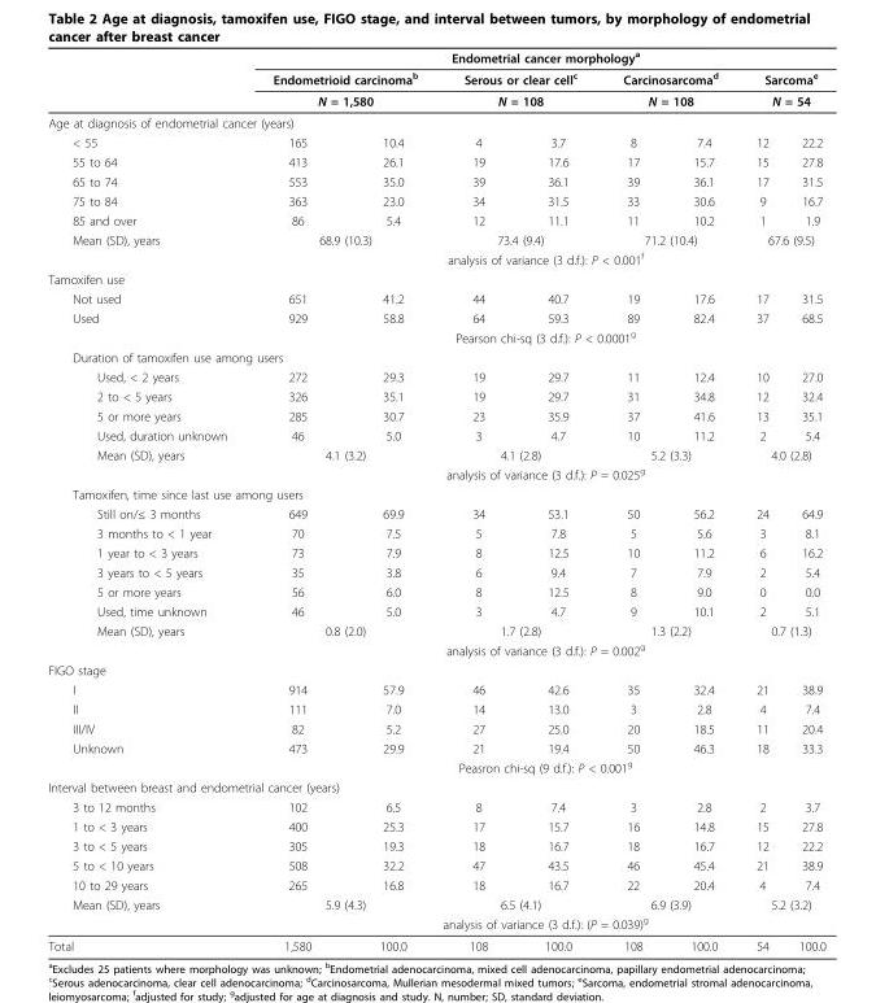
<table><thead><tr><td rowspan="3"></td><td colspan="8">Endometrial cancer morphology<sup>a</sup></td></tr><tr><td rowspan="2" colspan="2">Endometrioid carcinoma<sup>b</sup> N = 1,580</td><td rowspan="2" colspan="2">Serous or clear cell<sup>c</sup> N = 108</td><td rowspan="2" colspan="2">Carcinosarcoma<sup>d</sup> N = 108</td><td rowspan="2" colspan="2">Sarcoma<sup>e</sup> N = 54</td></tr><tr></tr><tr><td colspan="9">Age at diagnosis of endometrial cancer (years)</td></tr><tr><td>&lt; 55</td><td>165</td><td>10.4</td><td>4</td><td>3.7</td><td>8</td><td>7.4</td><td>12</td><td>22.2</td></tr></thead><tbody><tr><td>55 to 64</td><td>413</td><td>26.1</td><td>19</td><td>17.6</td><td>17</td><td>15.7</td><td>15</td><td>27.8</td></tr><tr><td>65 to 74</td><td>553</td><td>35.0</td><td>39</td><td>36.1</td><td>39</td><td>36.1</td><td>17</td><td>31.5</td></tr><tr><td>75 to 84</td><td>363</td><td>23.0</td><td>34</td><td>31.5</td><td>33</td><td>30.6</td><td>9</td><td>16.7</td></tr><tr><td>85 and over</td><td>86</td><td>5.4</td><td>12</td><td>11.1</td><td>11</td><td>10.2</td><td>1</td><td>1.9</td></tr><tr><td rowspan="2">Mean (SD), years</td><td colspan="2">68.9 (10.3)</td><td colspan="2">73.4 (9.4)</td><td colspan="2">71.2 (10.4)</td><td colspan="2">67.6 (9.5)</td></tr><tr><td colspan="8">analysis of variance (3 d.f.): P &lt; 0.001<sup>f</sup></td></tr><tr><td colspan="9">Tamoxifen use</td></tr><tr><td>Not used</td><td>651</td><td>41.2</td><td>44</td><td>40.7</td><td>19</td><td>17.6</td><td>17</td><td>31.5</td></tr><tr><td rowspan="2">Used</td><td>929</td><td>58.8</td><td>64</td><td>59.3</td><td>89</td><td>82.4</td><td>37</td><td>68.5</td></tr><tr><td colspan="8">Pearson chi-sq (3 d.f.): P &lt; 0.0001<sup>g</sup></td></tr><tr><td colspan="9">Duration of tamoxifen use among users</td></tr><tr><td>Used, &lt; 2 years</td><td>272</td><td>29.3</td><td>19</td><td>29.7</td><td>11</td><td>12.4</td><td>10</td><td>27.0</td></tr><tr><td>2 to &lt; 5 years</td><td>326</td><td>35.1</td><td>19</td><td>29.7</td><td>31</td><td>34.8</td><td>12</td><td>32.4</td></tr><tr><td>5 or more years</td><td>285</td><td>30.7</td><td>23</td><td>35.9</td><td>37</td><td>41.6</td><td>13</td><td>35.1</td></tr><tr><td>Used, duration unknown</td><td>46</td><td>5.0</td><td>3</td><td>4.7</td><td>10</td><td>11.2</td><td>2</td><td>5.4</td></tr><tr><td rowspan="2">Mean (SD), years</td><td colspan="2">4.1 (3.2)</td><td colspan="2">4.1 (2.8)</td><td colspan="2">5.2 (3.3)</td><td colspan="2">4.0 (2.8)</td></tr><tr><td colspan="8">analysis of variance (3 d.f.): P = 0.025<sup>g</sup></td></tr><tr><td colspan="9">Tamoxifen, time since last use among users</td></tr><tr><td>Still on/≤ 3 months</td><td>649</td><td>69.9</td><td>34</td><td>53.1</td><td>50</td><td>56.2</td><td>24</td><td>64.9</td></tr><tr><td>3 months to &lt; 1 year</td><td>70</td><td>7.5</td><td>5</td><td>7.8</td><td>5</td><td>5.6</td><td>3</td><td>8.1</td></tr><tr><td>1 year to &lt; 3 years</td><td>73</td><td>7.9</td><td>8</td><td>12.5</td><td>10</td><td>11.2</td><td>6</td><td>16.2</td></tr><tr><td>3 years to &lt; 5 years</td><td>35</td><td>3.8</td><td>6</td><td>9.4</td><td>7</td><td>7.9</td><td>2</td><td>5.4</td></tr><tr><td>5 or more years</td><td>56</td><td>6.0</td><td>8</td><td>12.5</td><td>8</td><td>9.0</td><td>0</td><td>0.0</td></tr><tr><td>Used, time unknown</td><td>46</td><td>5.0</td><td>3</td><td>4.7</td><td>9</td><td>10.1</td><td>2</td><td>5.1</td></tr><tr><td rowspan="2">Mean (SD), years</td><td colspan="2">0.8 (2.0)</td><td colspan="2">1.7 (2.8)</td><td colspan="2">1.3 (2.2)</td><td colspan="2">0.7 (1.3)</td></tr><tr><td colspan="8">analysis of variance (3 d.f.): P = 0.002<sup>g</sup></td></tr><tr><td colspan="9">FIGO stage</td></tr><tr><td>I</td><td>914</td><td>57.9</td><td>46</td><td>42.6</td><td>35</td><td>32.4</td><td>21</td><td>38.9</td></tr><tr><td>II</td><td>111</td><td>7.0</td><td>14</td><td>13.0</td><td>3</td><td>2.8</td><td>4</td><td>7.4</td></tr><tr><td>III/IV</td><td>82</td><td>5.2</td><td>27</td><td>25.0</td><td>20</td><td>18.5</td><td>11</td><td>20.4</td></tr><tr><td rowspan="2">Unknown</td><td>473</td><td>29.9</td><td>21</td><td>19.4</td><td>50</td><td>46.3</td><td>18</td><td>33.3</td></tr><tr><td colspan="8">Peasron chi-sq (9 d.f.): P &lt; 0.001<sup>g</sup></td></tr><tr><td colspan="9">Interval between breast and endometrial cancer (years)</td></tr><tr><td>3 to 12 months</td><td>102</td><td>6.5</td><td>8</td><td>7.4</td><td>3</td><td>2.8</td><td>2</td><td>3.7</td></tr><tr><td>1 to &lt; 3 years</td><td>400</td><td>25.3</td><td>17</td><td>15.7</td><td>16</td><td>14.8</td><td>15</td><td>27.8</td></tr><tr><td>3 to &lt; 5 years</td><td>305</td><td>19.3</td><td>18</td><td>16.7</td><td>18</td><td>16.7</td><td>12</td><td>22.2</td></tr><tr><td>5 to &lt; 10 years</td><td>508</td><td>32.2</td><td>47</td><td>43.5</td><td>46</td><td>45.4</td><td>21</td><td>38.9</td></tr><tr><td>10 to 29 years</td><td>265</td><td>16.8</td><td>18</td><td>16.7</td><td>22</td><td>20.4</td><td>4</td><td>7.4</td></tr><tr><td rowspan="2">Mean (SD), years</td><td colspan="2">5.9 (4.3)</td><td colspan="2">6.5 (4.1)</td><td colspan="2">6.9 (3.9)</td><td colspan="2">5.2 (3.2)</td></tr><tr><td colspan="8">analysis of variance (3 d.f.): (P = 0.039)<sup>g</sup></td></tr><tr><td>Total</td><td>1,580</td><td>100.0</td><td>108</td><td>100.0</td><td>108</td><td>100.0</td><td>54</td><td>100.0</td></tr></tbody></table>